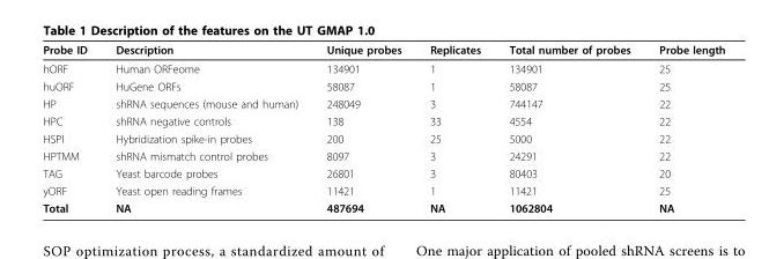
<table><thead><tr><td>Probe ID</td><td>Description</td><td>Unique probes</td><td>Replicates</td><td>Total number of probes</td><td>Probe length</td></tr></thead><tbody><tr><td>hORF</td><td>Human ORFeome</td><td>134901</td><td>1</td><td>134901</td><td>25</td></tr><tr><td>huORF</td><td>HuGene ORFs</td><td>58087</td><td>1</td><td>58087</td><td>25</td></tr><tr><td>HP</td><td>shRNA sequences (mouse and human)</td><td>248049</td><td>3</td><td>744147</td><td>22</td></tr><tr><td>HPC</td><td>shRNA negative controls</td><td>138</td><td>33</td><td>4554</td><td>22</td></tr><tr><td>HSPI</td><td>Hybridization spike-in probes</td><td>200</td><td>25</td><td>5000</td><td>22</td></tr><tr><td>HPTMM</td><td>shRNA mismatch control probes</td><td>8097</td><td>3</td><td>24291</td><td>22</td></tr><tr><td>TAG</td><td>Yeast barcode probes</td><td>26801</td><td>3</td><td>80403</td><td>20</td></tr><tr><td>yORF</td><td>Yeast open reading frames</td><td>11421</td><td>1</td><td>11421</td><td>25</td></tr><tr><td>Total</td><td>NA</td><td>487694</td><td>NA</td><td>1062804</td><td>NA</td></tr></tbody></table>